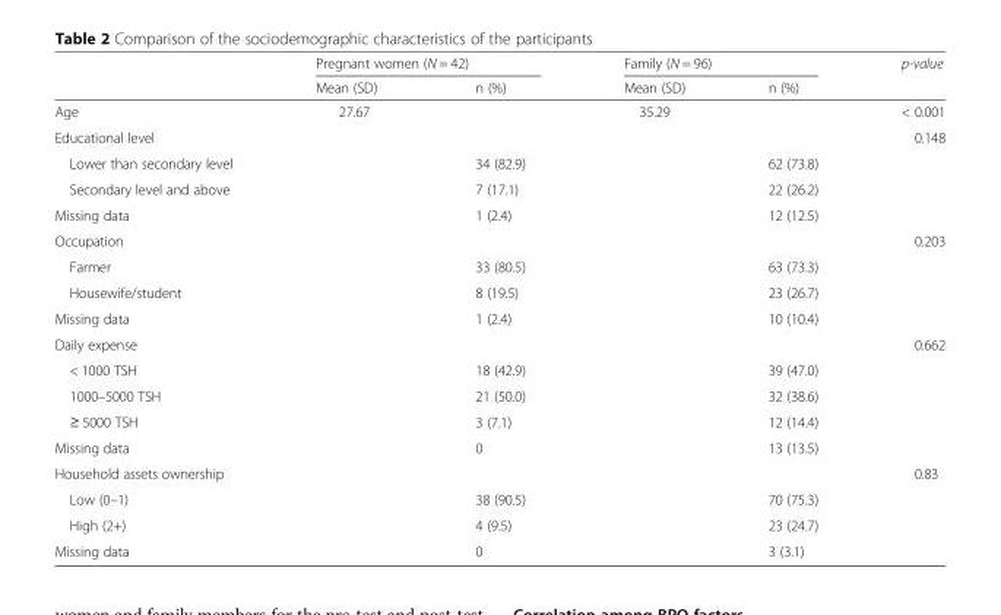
<table><thead><tr><td rowspan="2"></td><td colspan="2">Pregnant women (N = 42)</td><td colspan="2">Family (N = 96)</td><td rowspan="2">p-value</td></tr><tr><td>Mean (SD)</td><td>n (%)</td><td>Mean (SD)</td><td>n (%)</td></tr></thead><tbody><tr><td>Age</td><td>27.67</td><td></td><td>35.29</td><td></td><td>&lt; 0.001</td></tr><tr><td>Educational level</td><td></td><td></td><td></td><td></td><td>0.148</td></tr><tr><td>Lower than secondary level</td><td></td><td>34 (82.9)</td><td></td><td>62 (73.8)</td><td></td></tr><tr><td>Secondary level and above</td><td></td><td>7 (17.1)</td><td></td><td>22 (26.2)</td><td></td></tr><tr><td>Missing data</td><td></td><td>1 (2.4)</td><td></td><td>12 (12.5)</td><td></td></tr><tr><td>Occupation</td><td></td><td></td><td></td><td></td><td>0.203</td></tr><tr><td>Farmer</td><td></td><td>33 (80.5)</td><td></td><td>63 (73.3)</td><td></td></tr><tr><td>Housewife/student</td><td></td><td>8 (19.5)</td><td></td><td>23 (26.7)</td><td></td></tr><tr><td>Missing data</td><td></td><td>1 (2.4)</td><td></td><td>10 (10.4)</td><td></td></tr><tr><td>Daily expense</td><td></td><td></td><td></td><td></td><td>0.662</td></tr><tr><td>&lt; 1000 TSH</td><td></td><td>18 (42.9)</td><td></td><td>39 (47.0)</td><td></td></tr><tr><td>1000–5000 TSH</td><td></td><td>21 (50.0)</td><td></td><td>32 (38.6)</td><td></td></tr><tr><td>≥ 5000 TSH</td><td></td><td>3 (7.1)</td><td></td><td>12 (14.4)</td><td></td></tr><tr><td>Missing data</td><td></td><td>0</td><td></td><td>13 (13.5)</td><td></td></tr><tr><td>Household assets ownership</td><td></td><td></td><td></td><td></td><td>0.83</td></tr><tr><td>Low (0–1)</td><td></td><td>38 (90.5)</td><td></td><td>70 (75.3)</td><td></td></tr><tr><td>High (2+)</td><td></td><td>4 (9.5)</td><td></td><td>23 (24.7)</td><td></td></tr><tr><td>Missing data</td><td></td><td>0</td><td></td><td>3 (3.1)</td><td></td></tr></tbody></table>